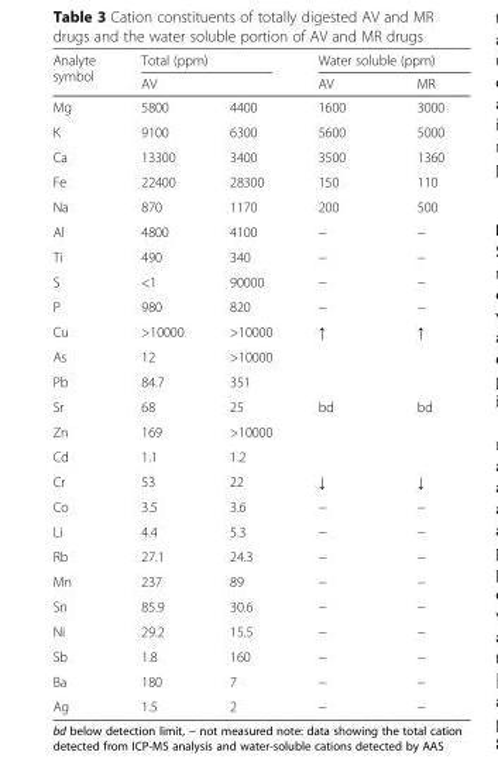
<table><thead><tr><td rowspan="2">Analyte symbol</td><td colspan="2">Total (ppm)</td><td colspan="2">Water soluble (ppm)</td></tr><tr><td>AV</td><td></td><td>AV</td><td>MR</td></tr></thead><tbody><tr><td>Mg</td><td>5800</td><td>4400</td><td>1600</td><td>3000</td></tr><tr><td>K</td><td>9100</td><td>6300</td><td>5600</td><td>5000</td></tr><tr><td>Ca</td><td>13300</td><td>3400</td><td>3500</td><td>1360</td></tr><tr><td>Fe</td><td>22400</td><td>28300</td><td>150</td><td>110</td></tr><tr><td>Na</td><td>870</td><td>1170</td><td>200</td><td>500</td></tr><tr><td>Al</td><td>4800</td><td>4100</td><td>−</td><td>−</td></tr><tr><td>Ti</td><td>490</td><td>340</td><td>−</td><td>−</td></tr><tr><td>S</td><td>&lt;1</td><td>90000</td><td>−</td><td>−</td></tr><tr><td>P</td><td>980</td><td>820</td><td>−</td><td>−</td></tr><tr><td>Cu</td><td>&gt;10000</td><td>&gt;10000</td><td>↑</td><td>↑</td></tr><tr><td>As</td><td>12</td><td>&gt;10000</td><td></td><td></td></tr><tr><td>Pb</td><td>84.7</td><td>351</td><td></td><td></td></tr><tr><td>Sr</td><td>68</td><td>25</td><td>bd</td><td>bd</td></tr><tr><td>Zn</td><td>169</td><td>&gt;10000</td><td></td><td></td></tr><tr><td>Cd</td><td>1.1</td><td>1.2</td><td></td><td></td></tr><tr><td>Cr</td><td>53</td><td>22</td><td>↓</td><td>↓</td></tr><tr><td>Co</td><td>3.5</td><td>3.6</td><td>−</td><td>−</td></tr><tr><td>Li</td><td>4.4</td><td>5.3</td><td>−</td><td>−</td></tr><tr><td>Rb</td><td>27.1</td><td>24.3</td><td>−</td><td>−</td></tr><tr><td>Mn</td><td>237</td><td>89</td><td>−</td><td>−</td></tr><tr><td>Sn</td><td>85.9</td><td>30.6</td><td>−</td><td>−</td></tr><tr><td>Ni</td><td>29.2</td><td>15.5</td><td>−</td><td>−</td></tr><tr><td>Sb</td><td>1.8</td><td>160</td><td>−</td><td>−</td></tr><tr><td>Ba</td><td>180</td><td>7</td><td>−</td><td>−</td></tr><tr><td>Ag</td><td>1.5</td><td>2</td><td>−</td><td>−</td></tr></tbody></table>